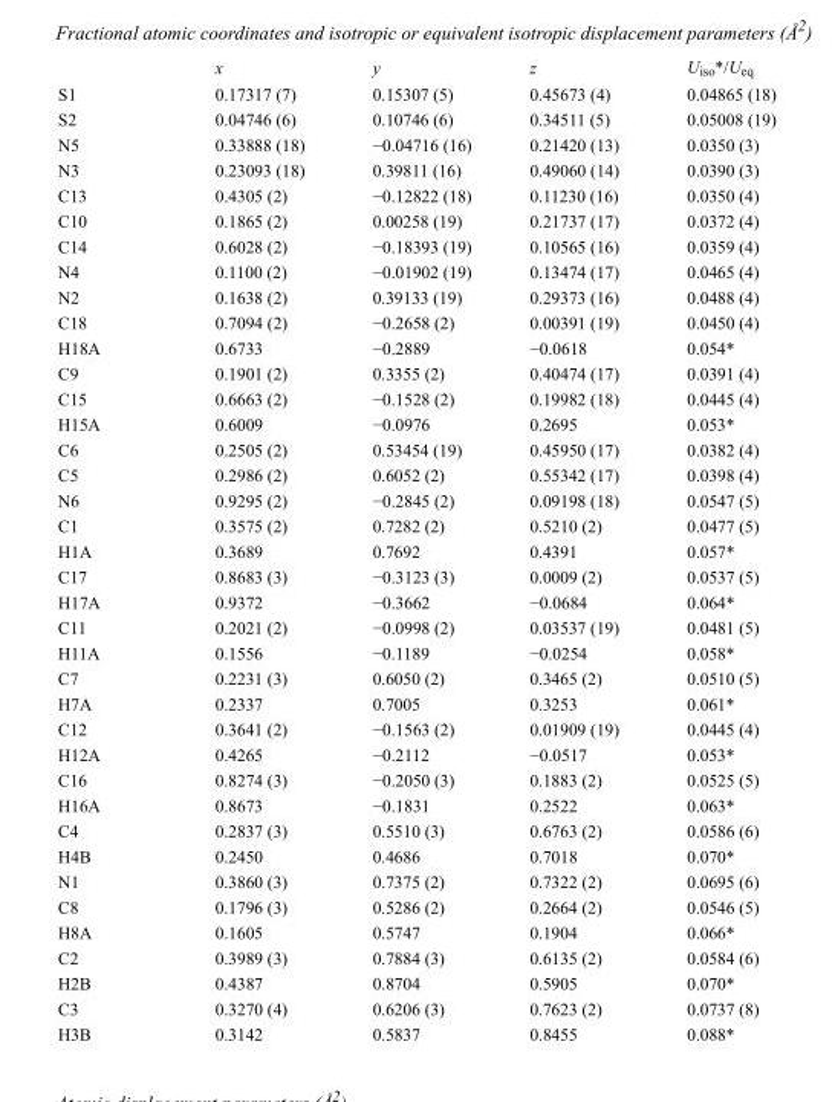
<table><thead><tr><td></td><td>x</td><td>y</td><td>z</td><td>U<sub>iso</sub>*/U<sub>eq</sub></td></tr></thead><tbody><tr><td>S1</td><td>0.17317 (7)</td><td>0.15307 (5)</td><td>0.45673 (4)</td><td>0.04865 (18)</td></tr><tr><td>S2</td><td>0.04746 (6)</td><td>0.10746 (6)</td><td>0.34511 (5)</td><td>0.05008 (19)</td></tr><tr><td>N5</td><td>0.33888 (18)</td><td>−0.04716 (16)</td><td>0.21420 (13)</td><td>0.0350 (3)</td></tr><tr><td>N3</td><td>0.23093 (18)</td><td>0.39811 (16)</td><td>0.49060 (14)</td><td>0.0390 (3)</td></tr><tr><td>C13</td><td>0.4305 (2)</td><td>−0.12822 (18)</td><td>0.11230 (16)</td><td>0.0350 (4)</td></tr><tr><td>C10</td><td>0.1865 (2)</td><td>0.00258 (19)</td><td>0.21737 (17)</td><td>0.0372 (4)</td></tr><tr><td>C14</td><td>0.6028 (2)</td><td>−0.18393 (19)</td><td>0.10565 (16)</td><td>0.0359 (4)</td></tr><tr><td>N4</td><td>0.1100 (2)</td><td>−0.01902 (19)</td><td>0.13474 (17)</td><td>0.0465 (4)</td></tr><tr><td>N2</td><td>0.1638 (2)</td><td>0.39133 (19)</td><td>0.29373 (16)</td><td>0.0488 (4)</td></tr><tr><td>C18</td><td>0.7094 (2)</td><td>−0.2658 (2)</td><td>0.00391 (19)</td><td>0.0450 (4)</td></tr><tr><td>H18A</td><td>0.6733</td><td>−0.2889</td><td>−0.0618</td><td>0.054*</td></tr><tr><td>C9</td><td>0.1901 (2)</td><td>0.3355 (2)</td><td>0.40474 (17)</td><td>0.0391 (4)</td></tr><tr><td>C15</td><td>0.6663 (2)</td><td>−0.1528 (2)</td><td>0.19982 (18)</td><td>0.0445 (4)</td></tr><tr><td>H15A</td><td>0.6009</td><td>−0.0976</td><td>0.2695</td><td>0.053*</td></tr><tr><td>C6</td><td>0.2505 (2)</td><td>0.53454 (19)</td><td>0.45950 (17)</td><td>0.0382 (4)</td></tr><tr><td>C5</td><td>0.2986 (2)</td><td>0.6052 (2)</td><td>0.55342 (17)</td><td>0.0398 (4)</td></tr><tr><td>N6</td><td>0.9295 (2)</td><td>−0.2845 (2)</td><td>0.09198 (18)</td><td>0.0547 (5)</td></tr><tr><td>C1</td><td>0.3575 (2)</td><td>0.7282 (2)</td><td>0.5210 (2)</td><td>0.0477 (5)</td></tr><tr><td>H1A</td><td>0.3689</td><td>0.7692</td><td>0.4391</td><td>0.057*</td></tr><tr><td>C17</td><td>0.8683 (3)</td><td>−0.3123 (3)</td><td>0.0009 (2)</td><td>0.0537 (5)</td></tr><tr><td>H17A</td><td>0.9372</td><td>−0.3662</td><td>−0.0684</td><td>0.064*</td></tr><tr><td>C11</td><td>0.2021 (2)</td><td>−0.0998 (2)</td><td>0.03537 (19)</td><td>0.0481 (5)</td></tr><tr><td>H11A</td><td>0.1556</td><td>−0.1189</td><td>−0.0254</td><td>0.058*</td></tr><tr><td>C7</td><td>0.2231 (3)</td><td>0.6050 (2)</td><td>0.3465 (2)</td><td>0.0510 (5)</td></tr><tr><td>H7A</td><td>0.2337</td><td>0.7005</td><td>0.3253</td><td>0.061*</td></tr><tr><td>C12</td><td>0.3641 (2)</td><td>−0.1563 (2)</td><td>0.01909 (19)</td><td>0.0445 (4)</td></tr><tr><td>H12A</td><td>0.4265</td><td>−0.2112</td><td>−0.0517</td><td>0.053*</td></tr><tr><td>C16</td><td>0.8274 (3)</td><td>−0.2050 (3)</td><td>0.1883 (2)</td><td>0.0525 (5)</td></tr><tr><td>H16A</td><td>0.8673</td><td>−0.1831</td><td>0.2522</td><td>0.063*</td></tr><tr><td>C4</td><td>0.2837 (3)</td><td>0.5510 (3)</td><td>0.6763 (2)</td><td>0.0586 (6)</td></tr><tr><td>H4B</td><td>0.2450</td><td>0.4686</td><td>0.7018</td><td>0.070*</td></tr><tr><td>N1</td><td>0.3860 (3)</td><td>0.7375 (2)</td><td>0.7322 (2)</td><td>0.0695 (6)</td></tr><tr><td>C8</td><td>0.1796 (3)</td><td>0.5286 (2)</td><td>0.2664 (2)</td><td>0.0546 (5)</td></tr><tr><td>H8A</td><td>0.1605</td><td>0.5747</td><td>0.1904</td><td>0.066*</td></tr><tr><td>C2</td><td>0.3989 (3)</td><td>0.7884 (3)</td><td>0.6135 (2)</td><td>0.0584 (6)</td></tr><tr><td>H2B</td><td>0.4387</td><td>0.8704</td><td>0.5905</td><td>0.070*</td></tr><tr><td>C3</td><td>0.3270 (4)</td><td>0.6206 (3)</td><td>0.7623 (2)</td><td>0.0737 (8)</td></tr><tr><td>H3B</td><td>0.3142</td><td>0.5837</td><td>0.8455</td><td>0.088*</td></tr></tbody></table>